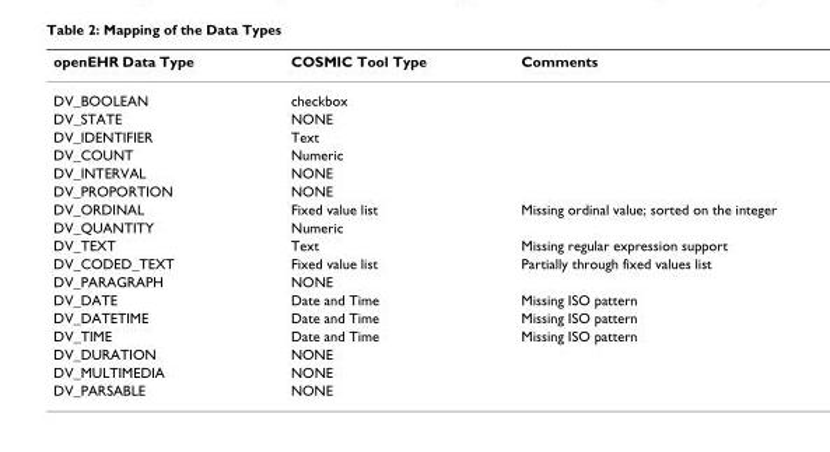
<table><thead><tr><td>openEHR Data Type</td><td>COSMIC Tool Type</td><td>Comments</td></tr></thead><tbody><tr><td>DV_BOOLEAN</td><td>checkbox</td><td></td></tr><tr><td>DV_STATE</td><td>NONE</td><td></td></tr><tr><td>DV_IDENTIFIER</td><td>Text</td><td></td></tr><tr><td>DV_COUNT</td><td>Numeric</td><td></td></tr><tr><td>DV_INTERVAL</td><td>NONE</td><td></td></tr><tr><td>DV_PROPORTION</td><td>NONE</td><td></td></tr><tr><td>DV_ORDINAL</td><td>Fixed value list</td><td>Missing ordinal value; sorted on the integer</td></tr><tr><td>DV_QUANTITY</td><td>Numeric</td><td></td></tr><tr><td>DV_TEXT</td><td>Text</td><td>Missing regular expression support</td></tr><tr><td>DV_CODED_TEXT</td><td>Fixed value list</td><td>Partially through fixed values list</td></tr><tr><td>DV_PARAGRAPH</td><td>NONE</td><td></td></tr><tr><td>DV_DATE</td><td>Date and Time</td><td>Missing ISO pattern</td></tr><tr><td>DV_DATETIME</td><td>Date and Time</td><td>Missing ISO pattern</td></tr><tr><td>DV_TIME</td><td>Date and Time</td><td>Missing ISO pattern</td></tr><tr><td>DV_DURATION</td><td>NONE</td><td></td></tr><tr><td>DV_MULTIMEDIA</td><td>NONE</td><td></td></tr><tr><td>DV_PARSABLE</td><td>NONE</td><td></td></tr></tbody></table>